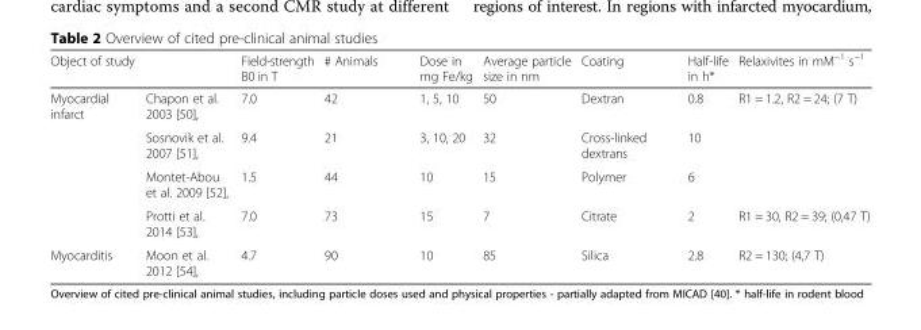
<table><thead><tr><td>Object of study</td><td></td><td>Field-strength B0 in T</td><td># Animals</td><td>Dose in mg Fe/kg</td><td>Average particle size in nm</td><td>Coating</td><td>Half-life in h*</td><td>Relaxivites in mM<sup>−1</sup> s<sup>−1</sup></td></tr></thead><tbody><tr><td rowspan="4">Myocardial infarct</td><td>Chapon et al. 2003 [50],</td><td>7.0</td><td>42</td><td>1, 5, 10</td><td>50</td><td>Dextran</td><td>0.8</td><td>R1 = 1.2, R2 = 24; (7 T)</td></tr><tr><td>Sosnovik et al. 2007 [51],</td><td>9.4</td><td>21</td><td>3, 10, 20</td><td>32</td><td>Cross-linked dextrans</td><td>10</td><td></td></tr><tr><td>Montet-Abou et al. 2009 [52],</td><td>1.5</td><td>44</td><td>10</td><td>15</td><td>Polymer</td><td>6</td><td></td></tr><tr><td>Protti et al. 2014 [53],</td><td>7.0</td><td>73</td><td>15</td><td>7</td><td>Citrate</td><td>2</td><td>R1 = 30, R2 = 39; (0,47 T)</td></tr><tr><td>Myocarditis</td><td>Moon et al. 2012 [54],</td><td>4.7</td><td>90</td><td>10</td><td>85</td><td>Silica</td><td>2.8</td><td>R2 = 130; (4,7 T)</td></tr></tbody></table>